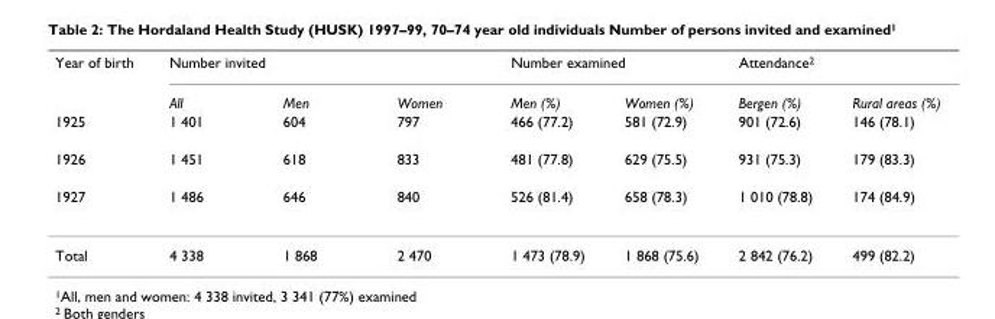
<table><thead><tr><td rowspan="5">Year of birth 1925 1926 1927</td><td colspan="3">Number invited</td><td colspan="2">Number examined</td><td colspan="2">Attendance2</td></tr><tr><td rowspan="4">All 1 401 1 451 1 486</td><td rowspan="4">Men 604 618 646</td><td rowspan="4">Women 797 833 840</td><td rowspan="4">Men (%) 466 (77.2) 481 (77.8) 526 (81.4)</td><td rowspan="4">Women (%) 581 (72.9) 629 (75.5) 658 (78.3)</td><td rowspan="4">Bergen (%) 901 (72.6) 931 (75.3) 1 010 (78.8)</td><td rowspan="4">Rural areas (%) 146 (78.1) 179 (83.3) 174 (84.9)</td></tr><tr></tr><tr></tr><tr></tr></thead><tbody><tr><td>Total</td><td>4 338</td><td>1 868</td><td>2 470</td><td>1 473 (78.9)</td><td>1 868 (75.6)</td><td>2 842 (76.2)</td><td>499 (82.2)</td></tr></tbody></table>